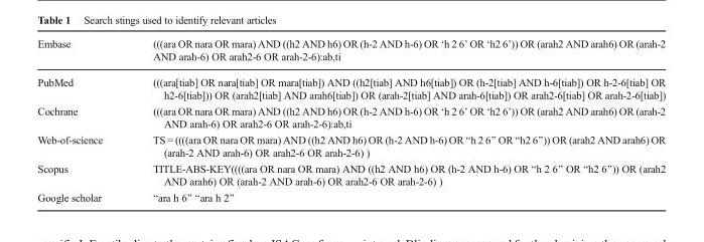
<table><thead><tr><td>Embase</td><td>(((ara OR nara OR mara) AND ((h2 AND h6) OR (h-2 AND h-6) OR ‘h 2 6’ OR ‘h2 6’)) OR (arah2 AND arah6) OR (arah-2 AND arah-6) OR arah2-6 OR arah-2-6):ab,ti</td></tr></thead><tbody><tr><td>PubMed</td><td>(((ara[tiab] OR nara[tiab] OR mara[tiab]) AND ((h2[tiab] AND h6[tiab]) OR (h-2[tiab] AND h-6[tiab]) OR h-2-6[tiab] OR h2-6[tiab])) OR (arah2[tiab] AND arah6[tiab]) OR (arah-2[tiab] AND arah-6[tiab]) OR arah2-6[tiab] OR arah-2-6[tiab])</td></tr><tr><td>Cochrane</td><td>(((ara OR nara OR mara) AND ((h2 AND h6) OR (h-2 AND h-6) OR ‘h 2 6’ OR ‘h2 6’)) OR (arah2 AND arah6) OR (arah-2 AND arah-6) OR arah2-6 OR arah-2-6):ab,ti</td></tr><tr><td>Web-of-science</td><td>TS = ((((ara OR nara OR mara) AND ((h2 AND h6) OR (h-2 AND h-6) OR “h 2 6” OR “h2 6”)) OR (arah2 AND arah6) OR (arah-2 AND arah-6) OR arah2-6 OR arah-2-6) )</td></tr><tr><td>Scopus</td><td>TITLE-ABS-KEY((((ara OR nara OR mara) AND ((h2 AND h6) OR (h-2 AND h-6) OR “h 2 6” OR “h2 6”)) OR (arah2 AND arah6) OR (arah-2 AND arah-6) OR arah2-6 OR arah-2-6) )</td></tr><tr><td>Google scholar</td><td>“ara h 6” “ara h 2”</td></tr></tbody></table>